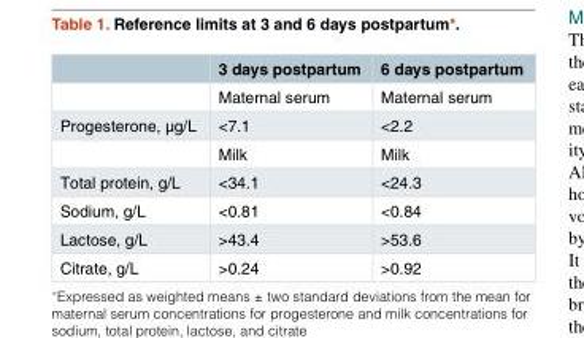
<table><thead><tr><td></td><td>3 days postpartum</td><td>6 days postpartum</td></tr></thead><tbody><tr><td></td><td>Maternal serum</td><td>Maternal serum</td></tr><tr><td rowspan="2">Progesterone, μg/L</td><td>&lt;7.1</td><td>&lt;2.2</td></tr><tr><td>Milk</td><td>Milk</td></tr><tr><td>Total protein, g/L</td><td>&lt;34.1</td><td>&lt;24.3</td></tr><tr><td>Sodium, g/L</td><td>&lt;0.81</td><td>&lt;0.84</td></tr><tr><td>Lactose, g/L</td><td>&gt;43.4</td><td>&gt;53.6</td></tr><tr><td>Citrate, g/L</td><td>&gt;0.24</td><td>&gt;0.92</td></tr></tbody></table>